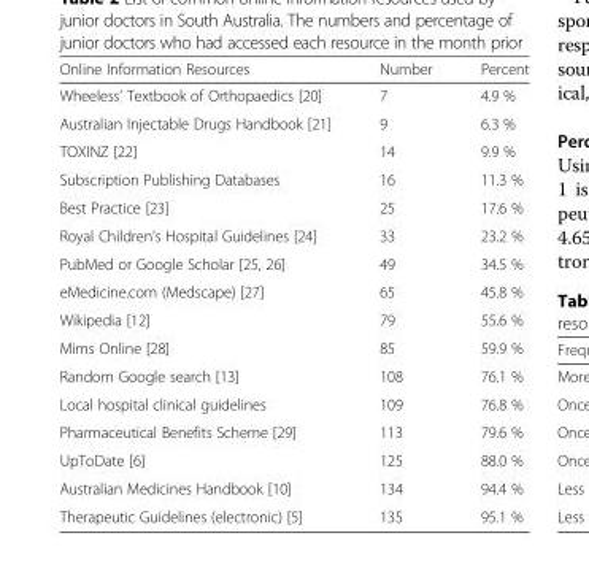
<table><thead><tr><td>Online Information Resources</td><td>Number</td><td>Percent</td></tr></thead><tbody><tr><td>Wheeless’ Textbook of Orthopaedics [20]</td><td>7</td><td>4.9 %</td></tr><tr><td>Australian Injectable Drugs Handbook [21]</td><td>9</td><td>6.3 %</td></tr><tr><td>TOXINZ [22]</td><td>14</td><td>9.9 %</td></tr><tr><td>Subscription Publishing Databases</td><td>16</td><td>11.3 %</td></tr><tr><td>Best Practice [23]</td><td>25</td><td>17.6 %</td></tr><tr><td>Royal Children’s Hospital Guidelines [24]</td><td>33</td><td>23.2 %</td></tr><tr><td>PubMed or Google Scholar [25, 26]</td><td>49</td><td>34.5 %</td></tr><tr><td>eMedicine.com (Medscape) [27]</td><td>65</td><td>45.8 %</td></tr><tr><td>Wikipedia [12]</td><td>79</td><td>55.6 %</td></tr><tr><td>Mims Online [28]</td><td>85</td><td>59.9 %</td></tr><tr><td>Random Google search [13]</td><td>108</td><td>76.1 %</td></tr><tr><td>Local hospital clinical guidelines</td><td>109</td><td>76.8 %</td></tr><tr><td>Pharmaceutical Benefits Scheme [29]</td><td>113</td><td>79.6 %</td></tr><tr><td>UpToDate [6]</td><td>125</td><td>88.0 %</td></tr><tr><td>Australian Medicines Handbook [10]</td><td>134</td><td>94.4 %</td></tr><tr><td>Therapeutic Guidelines (electronic) [5]</td><td>135</td><td>95.1 %</td></tr></tbody></table>